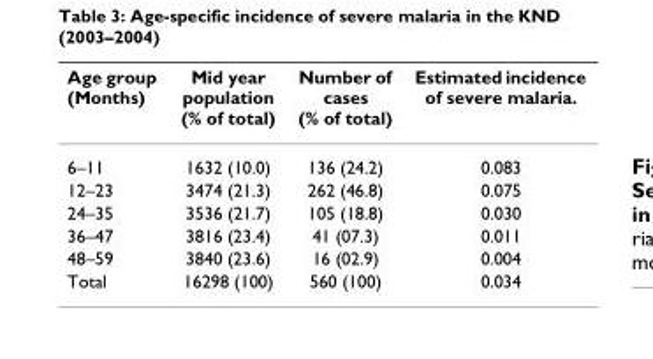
<table><thead><tr><td>Age group (Months)</td><td>Mid year population (% of total)</td><td>Number of cases (% of total)</td><td>Estimated incidence of severe malaria.</td></tr></thead><tbody><tr><td>6–11</td><td>1632 (10.0)</td><td>136 (24.2)</td><td>0.083</td></tr><tr><td>12–23</td><td>3474 (21.3)</td><td>262 (46.8)</td><td>0.075</td></tr><tr><td>24–35</td><td>3536 (21.7)</td><td>105 (18.8)</td><td>0.030</td></tr><tr><td>36–47</td><td>3816 (23.4)</td><td>41 (07.3)</td><td>0.011</td></tr><tr><td>48–59</td><td>3840 (23.6)</td><td>16 (02.9)</td><td>0.004</td></tr><tr><td>Total</td><td>16298 (100)</td><td>560 (100)</td><td>0.034</td></tr></tbody></table>